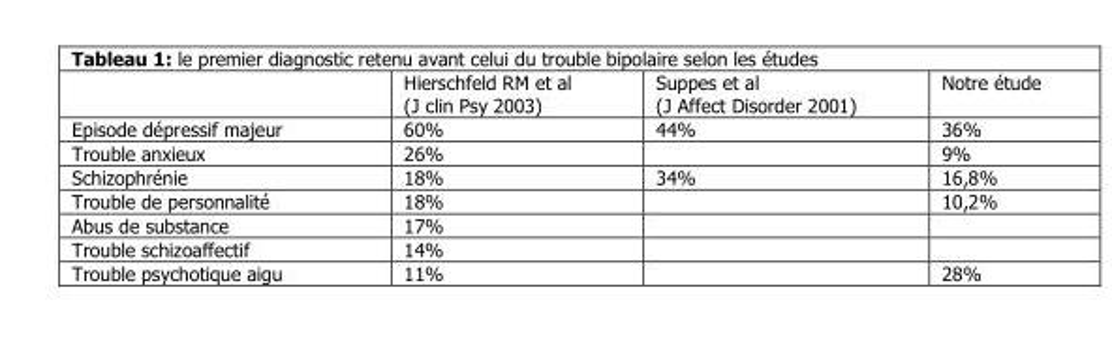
<table><thead><tr><td></td><td>Hierschfeld RM et al (J clin Psy 2003)</td><td>Suppes et al (J Affect Disorder 2001)</td><td>Notre étude</td></tr></thead><tbody><tr><td>Episode dépressif majeur</td><td>60%</td><td>44%</td><td>36%</td></tr><tr><td>Trouble anxieux</td><td>26%</td><td></td><td>9%</td></tr><tr><td>Schizophrénie</td><td>18%</td><td>34%</td><td>16,8%</td></tr><tr><td>Trouble de personnalité</td><td>18%</td><td></td><td>10,2%</td></tr><tr><td>Abus de substance</td><td>17%</td><td></td><td></td></tr><tr><td>Trouble schizoaffectif</td><td>14%</td><td></td><td></td></tr><tr><td>Trouble psychotique aigu</td><td>11%</td><td></td><td>28%</td></tr></tbody></table>